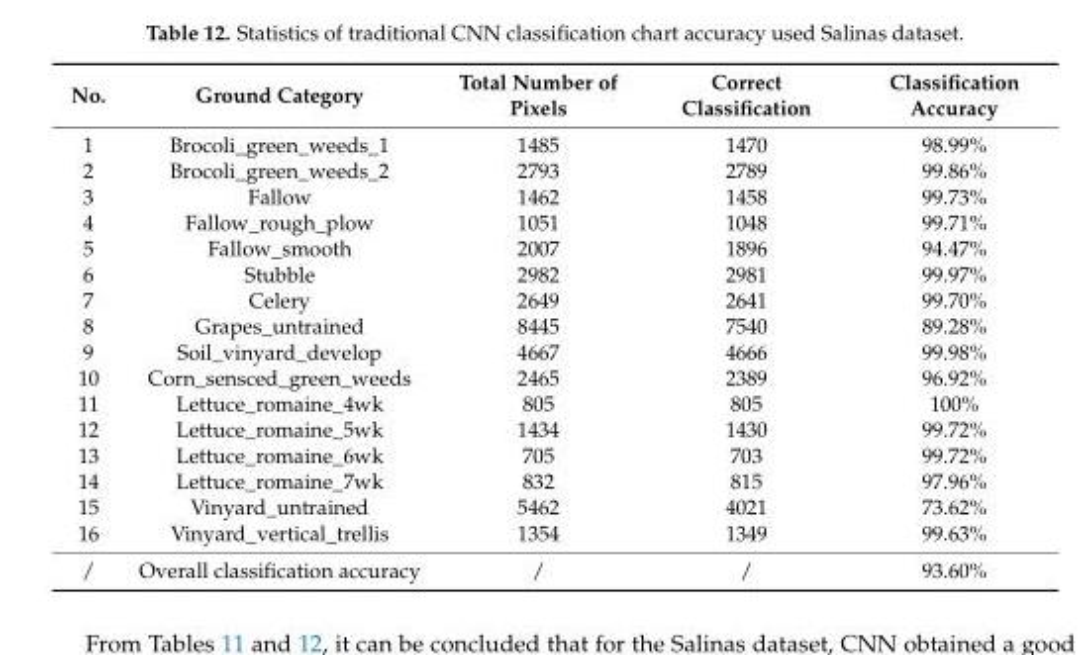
<table><thead><tr><td>No.</td><td>Ground Category</td><td>Total Number of Pixels</td><td>Correct Classification</td><td>Classification Accuracy</td></tr></thead><tbody><tr><td>1</td><td>Brocoli_green_weeds_1</td><td>1485</td><td>1470</td><td>98.99%</td></tr><tr><td>2</td><td>Brocoli_green_weeds_2</td><td>2793</td><td>2789</td><td>99.86%</td></tr><tr><td>3</td><td>Fallow</td><td>1462</td><td>1458</td><td>99.73%</td></tr><tr><td>4</td><td>Fallow_rough_plow</td><td>1051</td><td>1048</td><td>99.71%</td></tr><tr><td>5</td><td>Fallow_smooth</td><td>2007</td><td>1896</td><td>94.47%</td></tr><tr><td>6</td><td>Stubble</td><td>2982</td><td>2981</td><td>99.97%</td></tr><tr><td>7</td><td>Celery</td><td>2649</td><td>2641</td><td>99.70%</td></tr><tr><td>8</td><td>Grapes_untrained</td><td>8445</td><td>7540</td><td>89.28%</td></tr><tr><td>9</td><td>Soil_vinyard_develop</td><td>4667</td><td>4666</td><td>99.98%</td></tr><tr><td>10</td><td>Corn_sensced_green_weeds</td><td>2465</td><td>2389</td><td>96.92%</td></tr><tr><td>11</td><td>Lettuce_romaine_4wk</td><td>805</td><td>805</td><td>100%</td></tr><tr><td>12</td><td>Lettuce_romaine_5wk</td><td>1434</td><td>1430</td><td>99.72%</td></tr><tr><td>13</td><td>Lettuce_romaine_6wk</td><td>705</td><td>703</td><td>99.72%</td></tr><tr><td>14</td><td>Lettuce_romaine_7wk</td><td>832</td><td>815</td><td>97.96%</td></tr><tr><td>15</td><td>Vinyard_untrained</td><td>5462</td><td>4021</td><td>73.62%</td></tr><tr><td>16</td><td>Vinyard_vertical_trellis</td><td>1354</td><td>1349</td><td>99.63%</td></tr><tr><td>/</td><td>Overall classification accuracy</td><td>/</td><td>/</td><td>93.60%</td></tr></tbody></table>